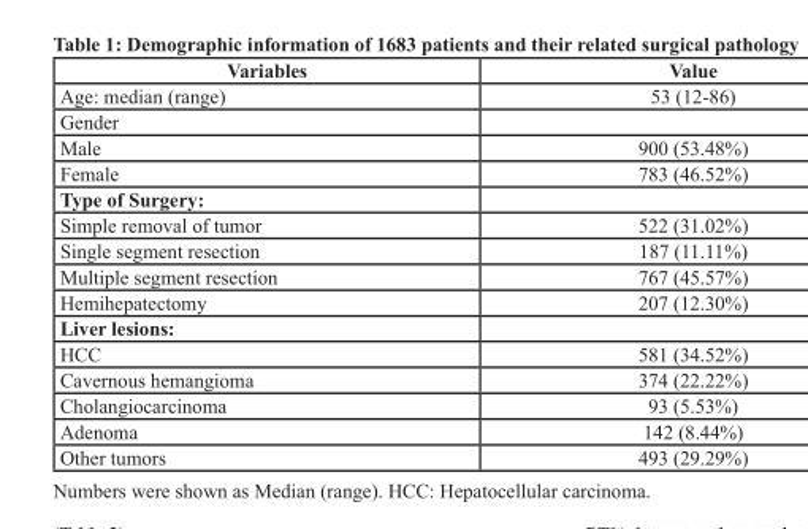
<table><thead><tr><td>Variables</td><td>Value</td></tr></thead><tbody><tr><td>Age: median (range)</td><td>53 (12-86)</td></tr><tr><td colspan="2">Gender</td></tr><tr><td>Male</td><td>900 (53.48%)</td></tr><tr><td>Female</td><td>783 (46.52%)</td></tr><tr><td colspan="2">Type of Surgery:</td></tr><tr><td>Simple removal of tumor</td><td>522 (31.02%)</td></tr><tr><td>Single segment resection</td><td>187 (11.11%)</td></tr><tr><td>Multiple segment resection</td><td>767 (45.57%)</td></tr><tr><td>Hemihepatectomy</td><td>207 (12.30%)</td></tr><tr><td colspan="2">Liver lesions:</td></tr><tr><td>HCC</td><td>581 (34.52%)</td></tr><tr><td>Cavernous hemangioma</td><td>374 (22.22%)</td></tr><tr><td>Cholangiocarcinoma</td><td>93 (5.53%)</td></tr><tr><td>Adenoma</td><td>142 (8.44%)</td></tr><tr><td>Other tumors</td><td>493 (29.29%)</td></tr></tbody></table>